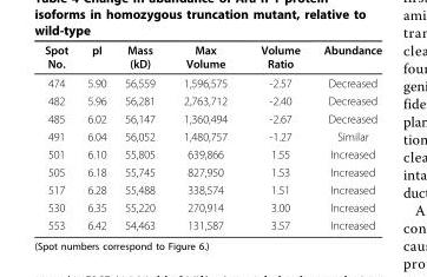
<table><thead><tr><td>Spot No.</td><td>pI</td><td>Mass (kD)</td><td>Max Volume</td><td>Volume Ratio</td><td>Abundance</td></tr></thead><tbody><tr><td>474</td><td>5.90</td><td>56,559</td><td>1,596,575</td><td>-2.57</td><td>Decreased</td></tr><tr><td>482</td><td>5.96</td><td>56,281</td><td>2,763,712</td><td>-2.40</td><td>Decreased</td></tr><tr><td>485</td><td>6.02</td><td>56,147</td><td>1,360,494</td><td>-2.67</td><td>Decreased</td></tr><tr><td>491</td><td>6.04</td><td>56,052</td><td>1,480,757</td><td>-1.27</td><td>Similar</td></tr><tr><td>501</td><td>6.10</td><td>55,805</td><td>639,866</td><td>1.55</td><td>Increased</td></tr><tr><td>505</td><td>6.18</td><td>55,745</td><td>827,950</td><td>1.53</td><td>Increased</td></tr><tr><td>517</td><td>6.28</td><td>55,488</td><td>338,574</td><td>1.51</td><td>Increased</td></tr><tr><td>530</td><td>6.35</td><td>55,220</td><td>270,914</td><td>3.00</td><td>Increased</td></tr><tr><td>553</td><td>6.42</td><td>54,463</td><td>131,587</td><td>3.57</td><td>Increased</td></tr></tbody></table>